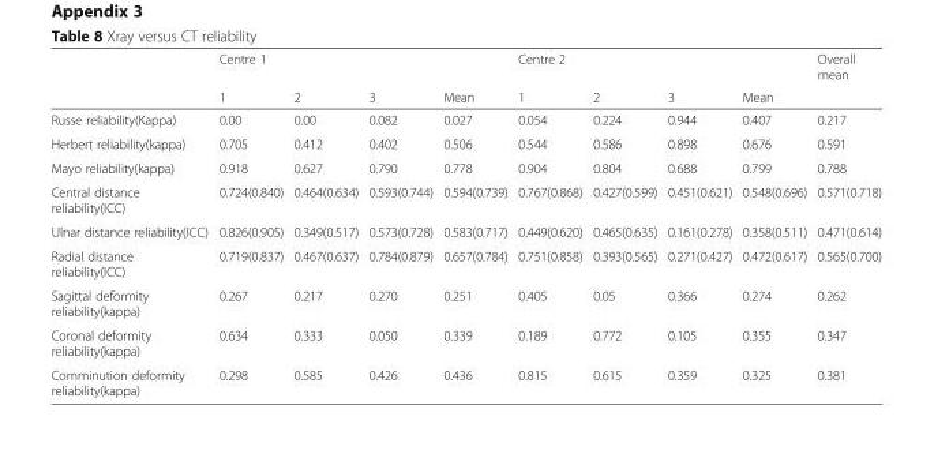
<table><thead><tr><td rowspan="2"></td><td rowspan="2">Centre 1 1</td><td rowspan="2">2</td><td rowspan="2">3</td><td rowspan="2">Mean</td><td rowspan="2">Centre 2 1</td><td rowspan="2">2</td><td rowspan="2">3</td><td rowspan="2">Mean</td><td rowspan="2">Overall mean</td></tr><tr></tr></thead><tbody><tr><td>Russe reliability(Kappa)</td><td>0.00</td><td>0.00</td><td>0.082</td><td>0.027</td><td>0.054</td><td>0.224</td><td>0.944</td><td>0.407</td><td>0.217</td></tr><tr><td>Herbert reliability(kappa)</td><td>0.705</td><td>0.412</td><td>0.402</td><td>0.506</td><td>0.544</td><td>0.586</td><td>0.898</td><td>0.676</td><td>0.591</td></tr><tr><td>Mayo reliability(kappa)</td><td>0.918</td><td>0.627</td><td>0.790</td><td>0.778</td><td>0.904</td><td>0.804</td><td>0.688</td><td>0.799</td><td>0.788</td></tr><tr><td>Central distance reliability(ICC)</td><td>0.724(0.840)</td><td>0.464(0.634)</td><td>0.593(0.744)</td><td>0.594(0.739)</td><td>0.767(0.868)</td><td>0.427(0.599)</td><td>0.451(0.621)</td><td>0.548(0.696)</td><td>0.571(0.718)</td></tr><tr><td>Ulnar distance reliability(ICC)</td><td>0.826(0.905)</td><td>0.349(0.517)</td><td>0.573(0.728)</td><td>0.583(0.717)</td><td>0.449(0.620)</td><td>0.465(0.635)</td><td>0.161(0.278)</td><td>0.358(0.511)</td><td>0.471(0.614)</td></tr><tr><td>Radial distance reliability(ICC)</td><td>0.719(0.837)</td><td>0.467(0.637)</td><td>0.784(0.879)</td><td>0.657(0.784)</td><td>0.751(0.858)</td><td>0.393(0.565)</td><td>0.271(0.427)</td><td>0.472(0.617)</td><td>0.565(0.700)</td></tr><tr><td>Sagittal deformity reliability(kappa)</td><td>0.267</td><td>0.217</td><td>0.270</td><td>0.251</td><td>0.405</td><td>0.05</td><td>0.366</td><td>0.274</td><td>0.262</td></tr><tr><td>Coronal deformity reliability(kappa)</td><td>0.634</td><td>0.333</td><td>0.050</td><td>0.339</td><td>0.189</td><td>0.772</td><td>0.105</td><td>0.355</td><td>0.347</td></tr><tr><td>Comminution deformity reliability(kappa)</td><td>0.298</td><td>0.585</td><td>0.426</td><td>0.436</td><td>0.815</td><td>0.615</td><td>0.359</td><td>0.325</td><td>0.381</td></tr></tbody></table>